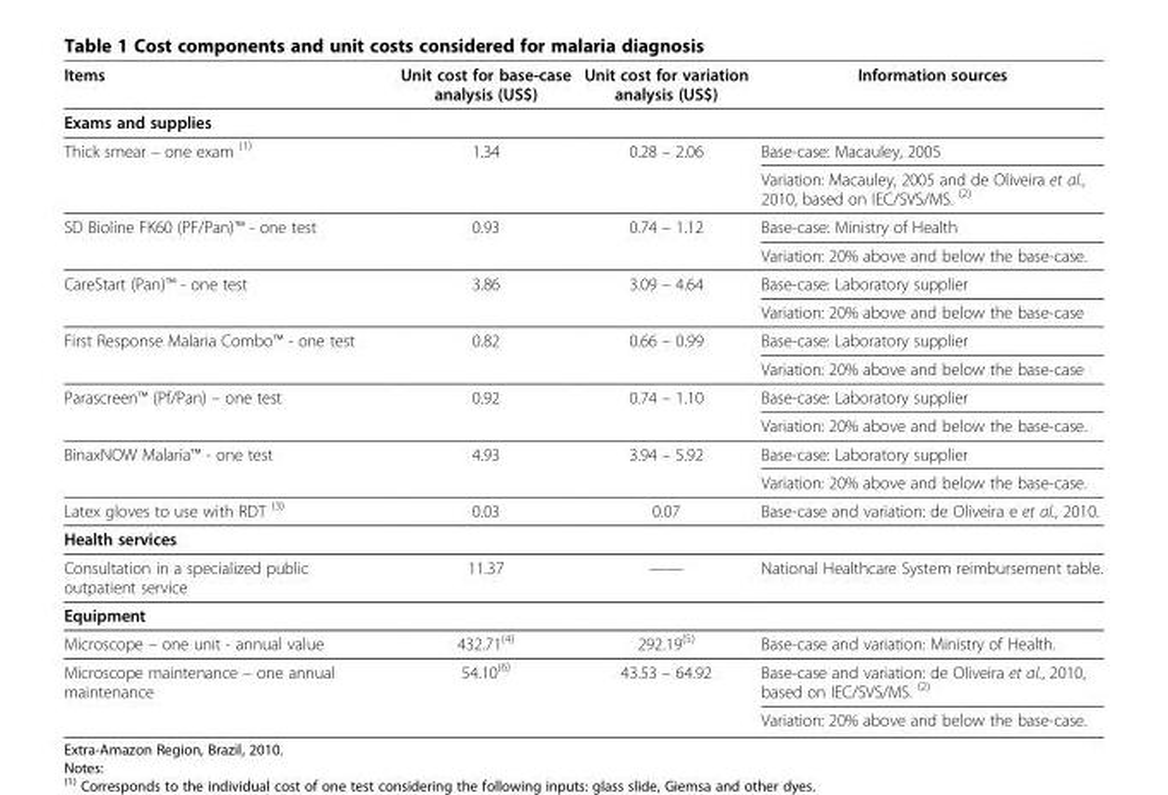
<table><thead><tr><td>Items</td><td>Unit cost for base-case analysis (US$)</td><td>Unit cost for variation analysis (US$)</td><td>Information sources</td></tr></thead><tbody><tr><td colspan="4">Exams and supplies</td></tr><tr><td rowspan="2">Thick smear – one exam <sup>(1)</sup></td><td>1.34</td><td>0.28 – 2.06</td><td>Base-case: Macauley, 2005</td></tr><tr><td></td><td></td><td>Variation: Macauley, 2005 and de Oliveira et al., 2010, based on IEC/SVS/MS. <sup>(2)</sup></td></tr><tr><td rowspan="2">SD Bioline FK60 (PF/Pan)™ - one test</td><td>0.93</td><td>0.74 – 1.12</td><td>Base-case: Ministry of Health</td></tr><tr><td></td><td></td><td>Variation: 20% above and below the base-case.</td></tr><tr><td rowspan="2">CareStart (Pan)™ - one test</td><td>3.86</td><td>3.09 – 4.64</td><td>Base-case: Laboratory supplier</td></tr><tr><td></td><td></td><td>Variation: 20% above and below the base-case</td></tr><tr><td rowspan="2">First Response Malaria Combo™ - one test</td><td>0.82</td><td>0.66 – 0.99</td><td>Base-case: Laboratory supplier</td></tr><tr><td></td><td></td><td>Variation: 20% above and below the base-case</td></tr><tr><td rowspan="2">Parascreen™ (Pf/Pan) – one test</td><td>0.92</td><td>0.74 – 1.10</td><td>Base-case: Laboratory supplier</td></tr><tr><td></td><td></td><td>Variation: 20% above and below the base-case.</td></tr><tr><td rowspan="2">BinaxNOW Malaria™ - one test</td><td>4.93</td><td>3.94 – 5.92</td><td>Base-case: Laboratory supplier</td></tr><tr><td></td><td></td><td>Variation: 20% above and below the base-case.</td></tr><tr><td>Latex gloves to use with RDT <sup>(3)</sup></td><td>0.03</td><td>0.07</td><td>Base-case and variation: de Oliveira e et al., 2010.</td></tr><tr><td colspan="4">Health services</td></tr><tr><td>Consultation in a specialized public outpatient service</td><td>11.37</td><td>——</td><td>National Healthcare System reimbursement table.</td></tr><tr><td colspan="4">Equipment</td></tr><tr><td>Microscope – one unit - annual value</td><td>432.71<sup>(4)</sup></td><td>292.19<sup>(5)</sup></td><td>Base-case and variation: Ministry of Health.</td></tr><tr><td rowspan="2">Microscope maintenance – one annual maintenance</td><td>54.10<sup>(6)</sup></td><td>43.53 – 64.92</td><td>Base-case and variation: de Oliveira et al., 2010, based on IEC/SVS/MS. <sup>(2)</sup></td></tr><tr><td></td><td></td><td>Variation: 20% above and below the base-case.</td></tr></tbody></table>